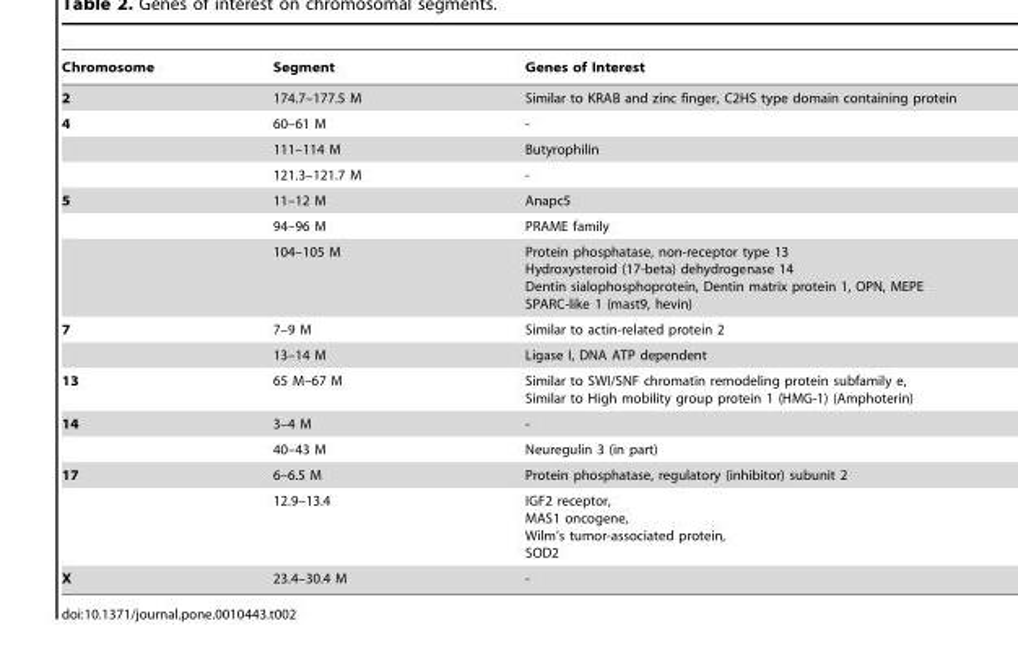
<table><thead><tr><td>Chromosome</td><td>Segment</td><td>Genes of Interest</td></tr></thead><tbody><tr><td>2</td><td>174.7–177.5 M</td><td>Similar to KRAB and zinc finger, C2HS type domain containing protein</td></tr><tr><td rowspan="3">4</td><td>60–61 M</td><td>-</td></tr><tr><td>111–114 M</td><td>Butyrophilin</td></tr><tr><td>121.3–121.7 M</td><td>-</td></tr><tr><td rowspan="3">5</td><td>11–12 M</td><td>Anapc5</td></tr><tr><td>94–96 M</td><td>PRAME family</td></tr><tr><td>104–105 M</td><td>Protein phosphatase, non-receptor type 13 Hydroxysteroid (17-beta) dehydrogenase 14 Dentin sialophosphoprotein, Dentin matrix protein 1, OPN, MEPE SPARC-like 1 (mast9, hevin)</td></tr><tr><td rowspan="2">7</td><td>7–9 M</td><td>Similar to actin-related protein 2</td></tr><tr><td>13–14 M</td><td>Ligase I, DNA ATP dependent</td></tr><tr><td>13</td><td>65 M–67 M</td><td>Similar to SWI/SNF chromatin remodeling protein subfamily e, Similar to High mobility group protein 1 (HMG-1) (Amphoterin)</td></tr><tr><td rowspan="2">14</td><td>3–4 M</td><td>-</td></tr><tr><td>40–43 M</td><td>Neuregulin 3 (in part)</td></tr><tr><td rowspan="2">17</td><td>6–6.5 M</td><td>Protein phosphatase, regulatory (inhibitor) subunit 2</td></tr><tr><td>12.9–13.4</td><td>IGF2 receptor, MAS1 oncogene, Wilm’s tumor-associated protein, SOD2</td></tr><tr><td>X</td><td>23.4–30.4 M</td><td>-</td></tr></tbody></table>